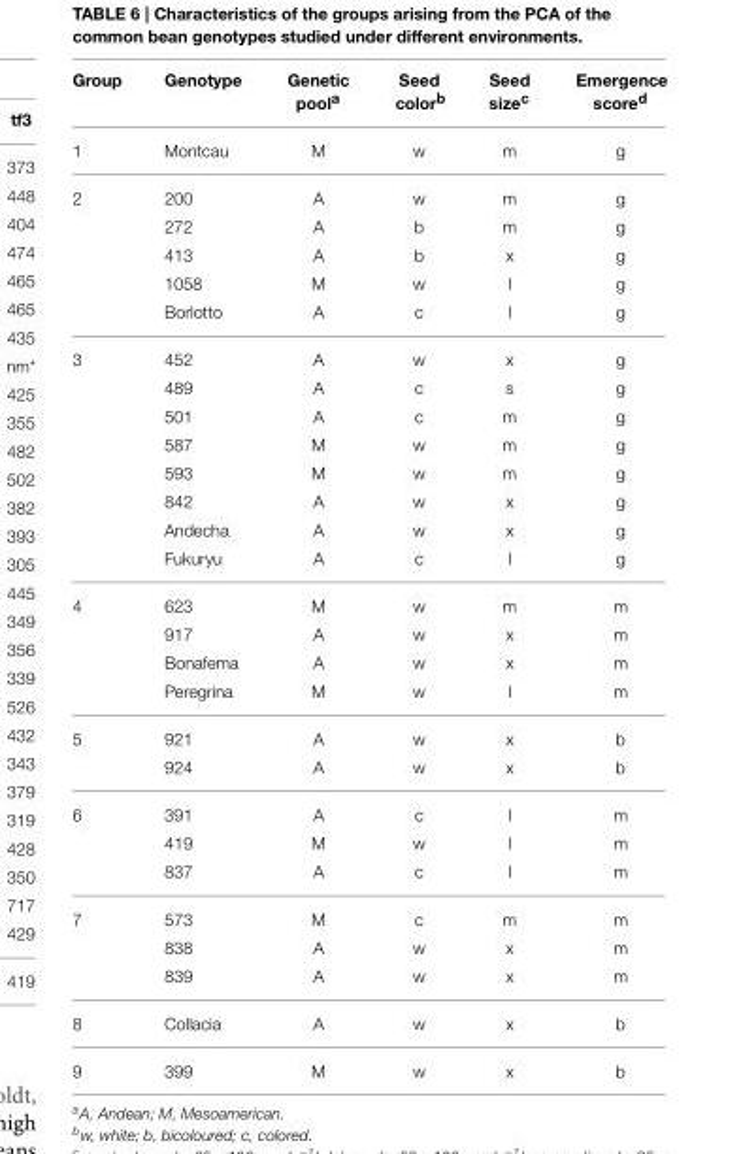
<table><thead><tr><td>Group</td><td>Genotype</td><td>Genetic pool<sup>a</sup></td><td>Seed color<sup>b</sup></td><td>Seed size<sup>c</sup></td><td>Emergence score<sup>d</sup></td></tr></thead><tbody><tr><td>1</td><td>Montcau</td><td>M</td><td>w</td><td>m</td><td>g</td></tr><tr><td rowspan="5">2</td><td>200</td><td>A</td><td>w</td><td>m</td><td>g</td></tr><tr><td>272</td><td>A</td><td>b</td><td>m</td><td>g</td></tr><tr><td>413</td><td>A</td><td>b</td><td>x</td><td>g</td></tr><tr><td>1058</td><td>M</td><td>w</td><td>l</td><td>g</td></tr><tr><td>Borlotto</td><td>A</td><td>c</td><td>l</td><td>g</td></tr><tr><td rowspan="8">3</td><td>452</td><td>A</td><td>w</td><td>x</td><td>g</td></tr><tr><td>489</td><td>A</td><td>c</td><td>s</td><td>g</td></tr><tr><td>501</td><td>A</td><td>c</td><td>m</td><td>g</td></tr><tr><td>587</td><td>M</td><td>w</td><td>m</td><td>g</td></tr><tr><td>593</td><td>M</td><td>w</td><td>m</td><td>g</td></tr><tr><td>842</td><td>A</td><td>w</td><td>x</td><td>g</td></tr><tr><td>Andecha</td><td>A</td><td>w</td><td>x</td><td>g</td></tr><tr><td>Fukuryu</td><td>A</td><td>c</td><td>l</td><td>g</td></tr><tr><td rowspan="4">4</td><td>623</td><td>M</td><td>w</td><td>m</td><td>m</td></tr><tr><td>917</td><td>A</td><td>w</td><td>x</td><td>m</td></tr><tr><td>Bonafema</td><td>A</td><td>w</td><td>x</td><td>m</td></tr><tr><td>Peregrina</td><td>M</td><td>w</td><td>l</td><td>m</td></tr><tr><td rowspan="2">5</td><td>921</td><td>A</td><td>w</td><td>x</td><td>b</td></tr><tr><td>924</td><td>A</td><td>w</td><td>x</td><td>b</td></tr><tr><td rowspan="3">6</td><td>391</td><td>A</td><td>c</td><td>l</td><td>m</td></tr><tr><td>419</td><td>M</td><td>w</td><td>l</td><td>m</td></tr><tr><td>837</td><td>A</td><td>c</td><td>l</td><td>m</td></tr><tr><td rowspan="3">7</td><td>573</td><td>M</td><td>c</td><td>m</td><td>m</td></tr><tr><td>838</td><td>A</td><td>w</td><td>x</td><td>m</td></tr><tr><td>839</td><td>A</td><td>w</td><td>x</td><td>m</td></tr><tr><td>8</td><td>Collacia</td><td>A</td><td>w</td><td>x</td><td>b</td></tr><tr><td>9</td><td>399</td><td>M</td><td>w</td><td>x</td><td>b</td></tr></tbody></table>